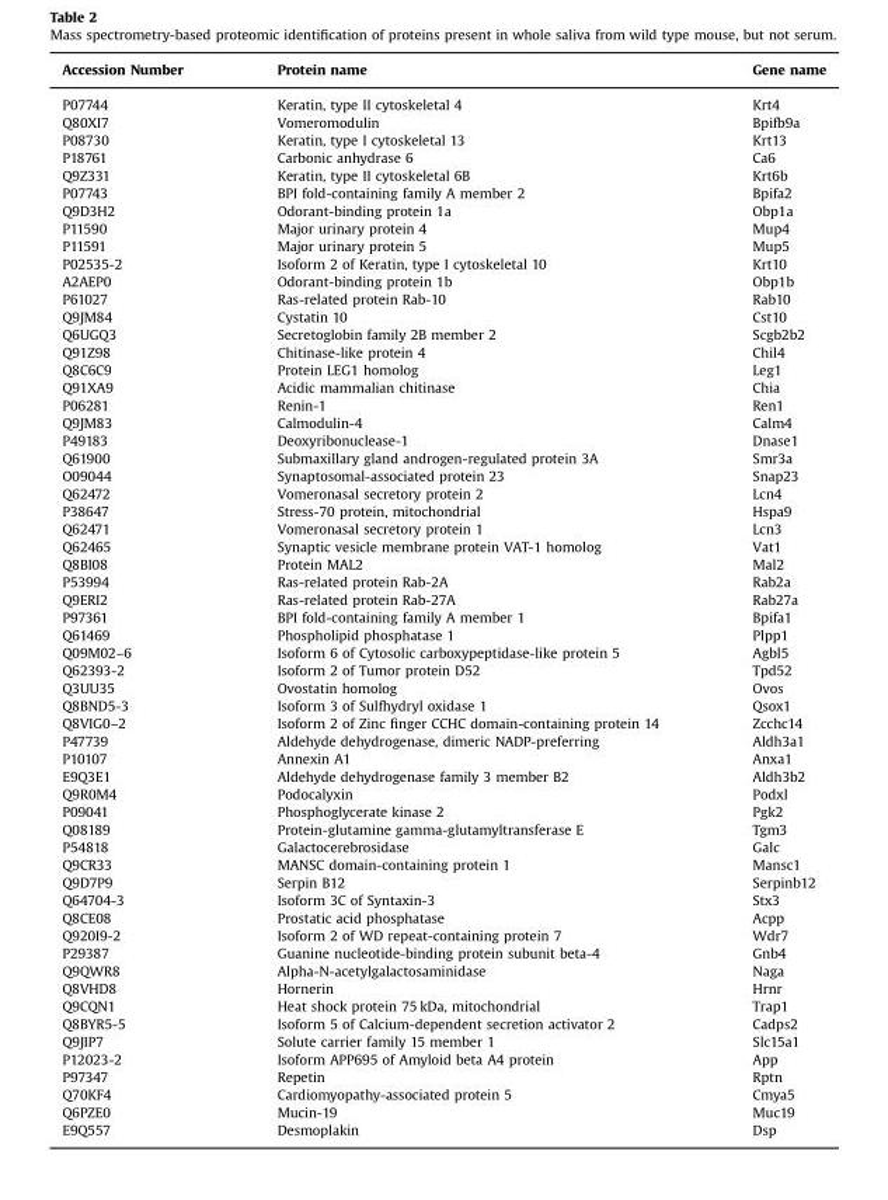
<table><thead><tr><td>Accession Number</td><td>Protein name</td><td>Gene name</td></tr></thead><tbody><tr><td>P07744</td><td>Keratin, type II cytoskeletal 4</td><td>Krt4</td></tr><tr><td>Q80XI7</td><td>Vomeromodulin</td><td>Bpifb9a</td></tr><tr><td>P08730</td><td>Keratin, type I cytoskeletal 13</td><td>Krt13</td></tr><tr><td>P18761</td><td>Carbonic anhydrase 6</td><td>Ca6</td></tr><tr><td>Q9Z331</td><td>Keratin, type II cytoskeletal 6B</td><td>Krt6b</td></tr><tr><td>P07743</td><td>BPI fold-containing family A member 2</td><td>Bpifa2</td></tr><tr><td>Q9D3H2</td><td>Odorant-binding protein 1a</td><td>Obp1a</td></tr><tr><td>P11590</td><td>Major urinary protein 4</td><td>Mup4</td></tr><tr><td>P11591</td><td>Major urinary protein 5</td><td>Mup5</td></tr><tr><td>P02535-2</td><td>Isoform 2 of Keratin, type I cytoskeletal 10</td><td>Krt10</td></tr><tr><td>A2AEP0</td><td>Odorant-binding protein 1b</td><td>Obp1b</td></tr><tr><td>P61027</td><td>Ras-related protein Rab-10</td><td>Rab10</td></tr><tr><td>Q9JM84</td><td>Cystatin 10</td><td>Cst10</td></tr><tr><td>Q6UGQ3</td><td>Secretoglobin family 2B member 2</td><td>Scgb2b2</td></tr><tr><td>Q91Z98</td><td>Chitinase-like protein 4</td><td>Chil4</td></tr><tr><td>Q8C6C9</td><td>Protein LEG1 homolog</td><td>Leg1</td></tr><tr><td>Q91XA9</td><td>Acidic mammalian chitinase</td><td>Chia</td></tr><tr><td>P06281</td><td>Renin-1</td><td>Ren1</td></tr><tr><td>Q9JM83</td><td>Calmodulin-4</td><td>Calm4</td></tr><tr><td>P49183</td><td>Deoxyribonuclease-1</td><td>Dnase1</td></tr><tr><td>Q61900</td><td>Submaxillary gland androgen-regulated protein 3A</td><td>Smr3a</td></tr><tr><td>O09044</td><td>Synaptosomal-associated protein 23</td><td>Snap23</td></tr><tr><td>Q62472</td><td>Vomeronasal secretory protein 2</td><td>Lcn4</td></tr><tr><td>P38647</td><td>Stress-70 protein, mitochondrial</td><td>Hspa9</td></tr><tr><td>Q62471</td><td>Vomeronasal secretory protein 1</td><td>Lcn3</td></tr><tr><td>Q62465</td><td>Synaptic vesicle membrane protein VAT-1 homolog</td><td>Vat1</td></tr><tr><td>Q8BI08</td><td>Protein MAL2</td><td>Mal2</td></tr><tr><td>P53994</td><td>Ras-related protein Rab-2A</td><td>Rab2a</td></tr><tr><td>Q9ERI2</td><td>Ras-related protein Rab-27A</td><td>Rab27a</td></tr><tr><td>P97361</td><td>BPI fold-containing family A member 1</td><td>Bpifa1</td></tr><tr><td>Q61469</td><td>Phospholipid phosphatase 1</td><td>Plpp1</td></tr><tr><td>Q09M02–6</td><td>Isoform 6 of Cytosolic carboxypeptidase-like protein 5</td><td>Agbl5</td></tr><tr><td>Q62393-2</td><td>Isoform 2 of Tumor protein D52</td><td>Tpd52</td></tr><tr><td>Q3UU35</td><td>Ovostatin homolog</td><td>Ovos</td></tr><tr><td>Q8BND5-3</td><td>Isoform 3 of Sulfhydryl oxidase 1</td><td>Qsox1</td></tr><tr><td>Q8VIG0–2</td><td>Isoform 2 of Zinc finger CCHC domain-containing protein 14</td><td>Zcchc14</td></tr><tr><td>P47739</td><td>Aldehyde dehydrogenase, dimeric NADP-preferring</td><td>Aldh3a1</td></tr><tr><td>P10107</td><td>Annexin A1</td><td>Anxa1</td></tr><tr><td>E9Q3E1</td><td>Aldehyde dehydrogenase family 3 member B2</td><td>Aldh3b2</td></tr><tr><td>Q9R0M4</td><td>Podocalyxin</td><td>Podxl</td></tr><tr><td>P09041</td><td>Phosphoglycerate kinase 2</td><td>Pgk2</td></tr><tr><td>Q08189</td><td>Protein-glutamine gamma-glutamyltransferase E</td><td>Tgm3</td></tr><tr><td>P54818</td><td>Galactocerebrosidase</td><td>Galc</td></tr><tr><td>Q9CR33</td><td>MANSC domain-containing protein 1</td><td>Mansc1</td></tr><tr><td>Q9D7P9</td><td>Serpin B12</td><td>Serpinb12</td></tr><tr><td>Q64704-3</td><td>Isoform 3C of Syntaxin-3</td><td>Stx3</td></tr><tr><td>Q8CE08</td><td>Prostatic acid phosphatase</td><td>Acpp</td></tr><tr><td>Q920I9-2</td><td>Isoform 2 of WD repeat-containing protein 7</td><td>Wdr7</td></tr><tr><td>P29387</td><td>Guanine nucleotide-binding protein subunit beta-4</td><td>Gnb4</td></tr><tr><td>Q9QWR8</td><td>Alpha-N-acetylgalactosaminidase</td><td>Naga</td></tr><tr><td>Q8VHD8</td><td>Hornerin</td><td>Hrnr</td></tr><tr><td>Q9CQN1</td><td>Heat shock protein 75 kDa, mitochondrial</td><td>Trap1</td></tr><tr><td>Q8BYR5-5</td><td>Isoform 5 of Calcium-dependent secretion activator 2</td><td>Cadps2</td></tr><tr><td>Q9JIP7</td><td>Solute carrier family 15 member 1</td><td>Slc15a1</td></tr><tr><td>P12023-2</td><td>Isoform APP695 of Amyloid beta A4 protein</td><td>App</td></tr><tr><td>P97347</td><td>Repetin</td><td>Rptn</td></tr><tr><td>Q70KF4</td><td>Cardiomyopathy-associated protein 5</td><td>Cmya5</td></tr><tr><td>Q6PZE0</td><td>Mucin-19</td><td>Muc19</td></tr><tr><td>E9Q557</td><td>Desmoplakin</td><td>Dsp</td></tr></tbody></table>